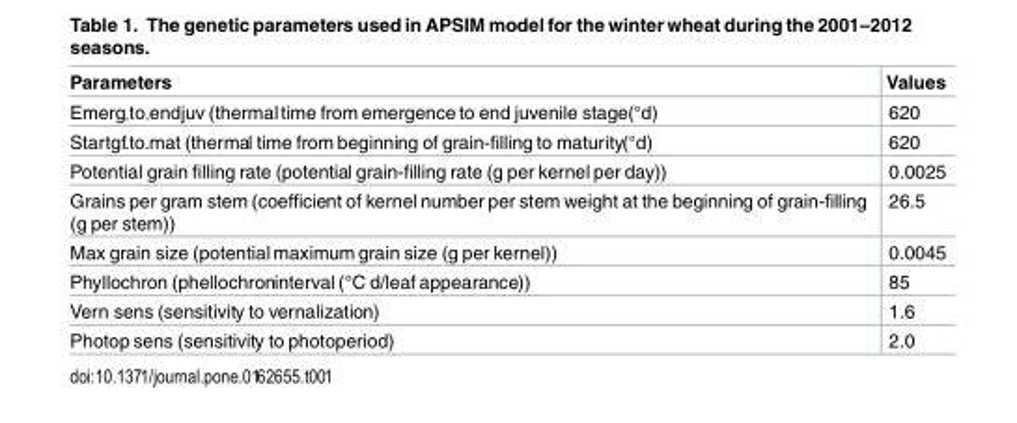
<table><thead><tr><td>Parameters</td><td>Values</td></tr></thead><tbody><tr><td>Emerg<sub>-</sub>to<sub>-</sub>endjuv (thermaltime from emergence to end juvenile stage(°d)</td><td>620</td></tr><tr><td>Startgf<sub>-</sub>to<sub>-</sub>mat (thermal time from beginning of grain-filling to maturity(°d)</td><td>620</td></tr><tr><td>Potential grain filling rate (potential grain-filling rate (g per kernel per day))</td><td>0.0025</td></tr><tr><td>Grains per gram stem (coefficient of kernel number per stem weight at the beginning of grain-filling (g per stem))</td><td>26.5</td></tr><tr><td>Max grain size (potential maximum grain size (g per kernel))</td><td>0.0045</td></tr><tr><td>Phyllochron (phellochroninterval (°C d/leaf appearance))</td><td>85</td></tr><tr><td>Vern sens (sensitivity to vernalization)</td><td>1.6</td></tr><tr><td>Photop sens (sensitivity to photoperiod)</td><td>2.0</td></tr></tbody></table>